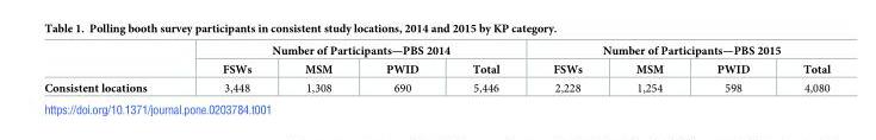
<table><thead><tr><td rowspan="2"></td><td colspan="4">Number of Participants—PBS 2014</td><td colspan="4">Number of Participants—PBS 2015</td></tr><tr><td>FSWs</td><td>MSM</td><td>PWID</td><td>Total</td><td>FSWs</td><td>MSM</td><td>PWID</td><td>Total</td></tr></thead><tbody><tr><td>Consistent locations</td><td>3,448</td><td>1,308</td><td>690</td><td>5,446</td><td>2,228</td><td>1,254</td><td>598</td><td>4,080</td></tr></tbody></table>